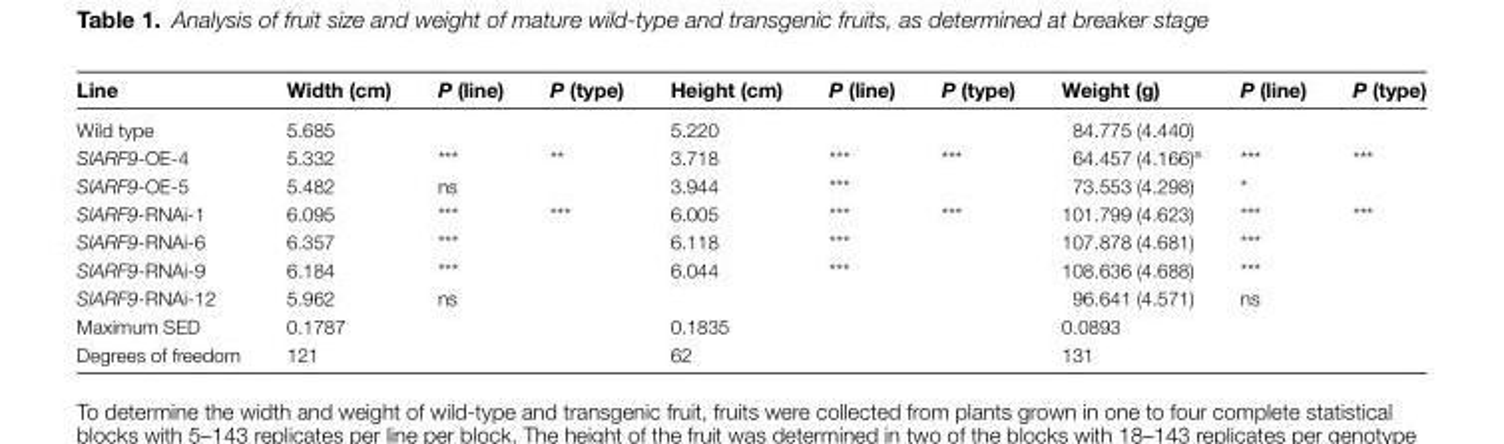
<table><thead><tr><td>Line</td><td>Width (cm)</td><td>P (line)</td><td>P (type)</td><td>Height (cm)</td><td>P (line)</td><td>P (type)</td><td>Weight (g)</td><td>P (line)</td><td>P (type)</td></tr></thead><tbody><tr><td>Wild type</td><td>5.685</td><td></td><td></td><td>5.220</td><td></td><td></td><td>84.775 (4.440)</td><td></td><td></td></tr><tr><td>SlARF9-OE-4</td><td>5.332</td><td>***</td><td rowspan="2">**</td><td>3.718</td><td>***</td><td rowspan="2">***</td><td>64.457 (4.166)<sup>a</sup></td><td>***</td><td rowspan="2">***</td></tr><tr><td>SlARF9-OE-5</td><td>5.482</td><td>ns</td><td>3.944</td><td>***</td><td>73.553 (4.298)</td><td>*</td></tr><tr><td>SlARF9-RNAi-1</td><td>6.095</td><td>***</td><td rowspan="4">***</td><td>6.005</td><td>***</td><td rowspan="3">***</td><td>101.799 (4.623)</td><td>***</td><td rowspan="4">***</td></tr><tr><td>SlARF9-RNAi-6</td><td>6.357</td><td>***</td><td>6.118</td><td>***</td><td>107.878 (4.681)</td><td>***</td></tr><tr><td>SlARF9-RNAi-9</td><td>6.184</td><td>***</td><td>6.044</td><td>***</td><td>108.636 (4.688)</td><td>***</td></tr><tr><td>SlARF9-RNAi-12</td><td>5.962</td><td>ns</td><td></td><td></td><td></td><td>96.641 (4.571)</td><td>ns</td></tr><tr><td>Maximum SED Degrees of freedom</td><td>0.1787 121</td><td></td><td></td><td>0.1835 62</td><td></td><td></td><td>0.0893 131</td><td></td><td></td></tr></tbody></table>